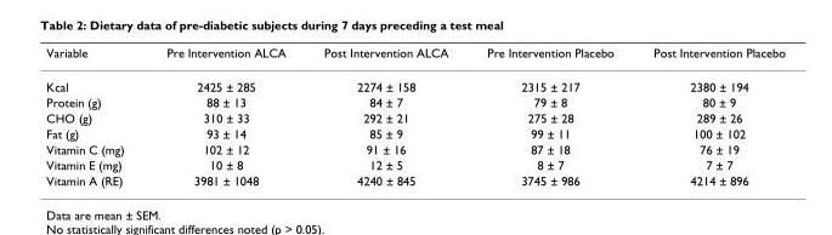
<table><thead><tr><td>Variable</td><td>Pre Intervention ALCA</td><td>Post Intervention ALCA</td><td>Pre Intervention Placebo</td><td>Post Intervention Placebo</td></tr></thead><tbody><tr><td>Kcal</td><td>2425 ± 285</td><td>2274 ± 158</td><td>2315 ± 217</td><td>2380 ± 194</td></tr><tr><td>Protein (g)</td><td>88 ± 13</td><td>84 ± 7</td><td>79 ± 8</td><td>80 ± 9</td></tr><tr><td>CHO (g)</td><td>310 ± 33</td><td>292 ± 21</td><td>275 ± 28</td><td>289 ± 26</td></tr><tr><td>Fat (g)</td><td>93 ± 14</td><td>85 ± 9</td><td>99 ± 11</td><td>100 ± 102</td></tr><tr><td>Vitamin C (mg)</td><td>102 ± 12</td><td>91 ± 16</td><td>87 ± 18</td><td>76 ± 19</td></tr><tr><td>Vitamin E (mg)</td><td>10 ± 8</td><td>12 ± 5</td><td>8 ± 7</td><td>7 ± 7</td></tr><tr><td>Vitamin A (RE)</td><td>3981 ± 1048</td><td>4240 ± 845</td><td>3745 ± 986</td><td>4214 ± 896</td></tr></tbody></table>